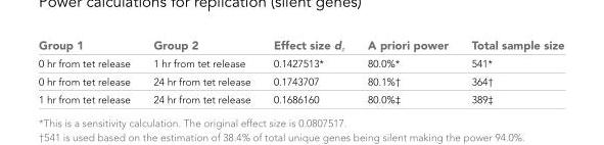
<table><thead><tr><td>Group 1</td><td>Group 2</td><td>Effect size d<sub>z</sub></td><td>A priori power</td><td>Total sample size</td></tr></thead><tbody><tr><td>0 hr from tet release</td><td>1 hr from tet release</td><td>0.1427513*</td><td>80.0%*</td><td>541*</td></tr><tr><td>0 hr from tet release</td><td>24 hr from tet release</td><td>0.1743707</td><td>80.1%†</td><td>364†</td></tr><tr><td>1 hr from tet release</td><td>24 hr from tet release</td><td>0.1686160</td><td>80.0%‡</td><td>389‡</td></tr></tbody></table>